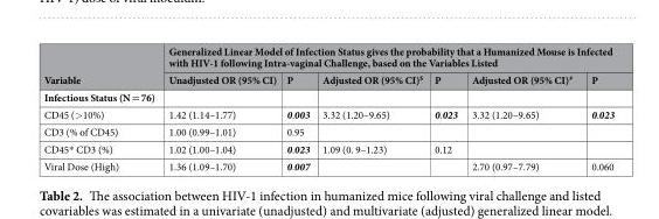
<table><thead><tr><td rowspan="2">Variable</td><td colspan="6">Generalized Linear Model of Infection Status gives the probability that a Humanized Mouse is Infected with HIV-1 following Intra-vaginal Challenge, based on the Variables Listed</td></tr><tr><td>Unadjusted OR (95% CI)</td><td>P</td><td>Adjusted OR (95% CI)<sup>$</sup></td><td>P</td><td>Adjusted OR (95% CI)<sup>#</sup></td><td>P</td></tr></thead><tbody><tr><td colspan="7">Infectious Status (N = 76)</td></tr><tr><td>CD45 (&gt;10%)</td><td>1.42 (1.14–1.77)</td><td>0.003</td><td>3.32 (1.20–9.65)</td><td>0.023</td><td>3.32 (1.20–9.65)</td><td>0.023</td></tr><tr><td>CD3 (% of CD45)</td><td>1.00 (0.99–1.01)</td><td>0.95</td><td></td><td></td><td></td><td></td></tr><tr><td>CD45* CD3 (%)</td><td>1.02 (1.00–1.04)</td><td>0.023</td><td>1.09 (0. 9–1.23)</td><td>0.12</td><td></td><td></td></tr><tr><td>Viral Dose (High)</td><td>1.36 (1.09–1.70)</td><td>0.007</td><td></td><td></td><td>2.70 (0.97–7.79)</td><td>0.060</td></tr></tbody></table>